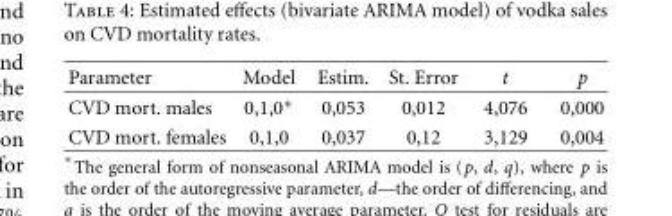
<table><thead><tr><td>Parameter</td><td>Model</td><td>Estim.</td><td>St. Error</td><td>t</td><td>p</td></tr></thead><tbody><tr><td>CVD mort. males</td><td>0,1,0∗</td><td>0,053</td><td>0,012</td><td>4,076</td><td>0,000</td></tr><tr><td>CVD mort. females</td><td>0,1,0</td><td>0,037</td><td>0,12</td><td>3,129</td><td>0,004</td></tr></tbody></table>